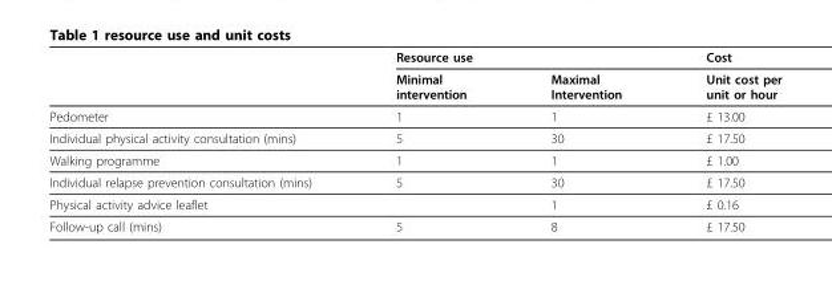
<table><thead><tr><td rowspan="2"></td><td colspan="2">Resource use</td><td rowspan="2">Cost Unit cost per unit or hour</td></tr><tr><td>Minimal intervention</td><td>Maximal Intervention</td></tr></thead><tbody><tr><td>Pedometer</td><td>1</td><td>1</td><td>£ 13.00</td></tr><tr><td>Individual physical activity consultation (mins)</td><td>5</td><td>30</td><td>£ 17.50</td></tr><tr><td>Walking programme</td><td>1</td><td>1</td><td>£ 1.00</td></tr><tr><td>Individual relapse prevention consultation (mins)</td><td>5</td><td>30</td><td>£ 17.50</td></tr><tr><td>Physical activity advice leaflet</td><td></td><td>1</td><td>£ 0.16</td></tr><tr><td>Follow-up call (mins)</td><td>5</td><td>8</td><td>£ 17.50</td></tr></tbody></table>